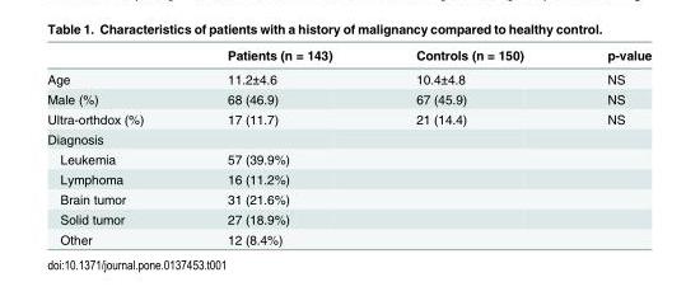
<table><thead><tr><td></td><td>Patients (n = 143)</td><td>Controls (n = 150)</td><td>p-value</td></tr></thead><tbody><tr><td>Age</td><td>11.2±4.6</td><td>10.4±4.8</td><td>NS</td></tr><tr><td>Male (%)</td><td>68 (46.9)</td><td>67 (45.9)</td><td>NS</td></tr><tr><td>Ultra-orthdox (%)</td><td>17 (11.7)</td><td>21 (14.4)</td><td>NS</td></tr><tr><td colspan="4">Diagnosis</td></tr><tr><td>Leukemia</td><td>57 (39.9%)</td><td></td><td></td></tr><tr><td>Lymphoma</td><td>16 (11.2%)</td><td></td><td></td></tr><tr><td>Brain tumor</td><td>31 (21.6%)</td><td></td><td></td></tr><tr><td>Solid tumor</td><td>27 (18.9%)</td><td></td><td></td></tr><tr><td>Other</td><td>12 (8.4%)</td><td></td><td></td></tr></tbody></table>